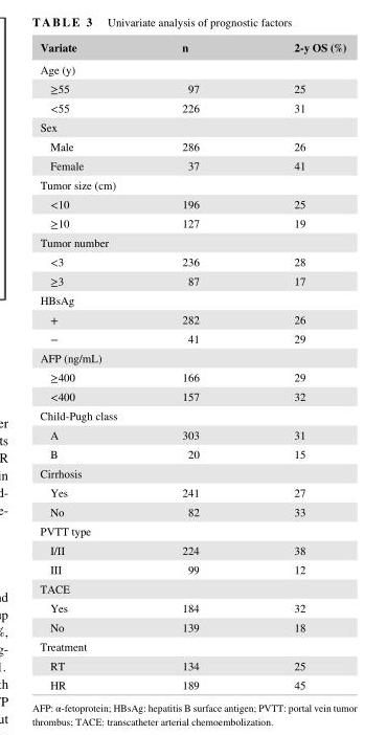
<table><thead><tr><td>Variate</td><td>n</td><td>2- y OS (%)</td></tr></thead><tbody><tr><td colspan="3">Age (y)</td></tr><tr><td>≥55</td><td>97</td><td>25</td></tr><tr><td>&lt;55</td><td>226</td><td>31</td></tr><tr><td colspan="3">Sex</td></tr><tr><td>Male</td><td>286</td><td>26</td></tr><tr><td>Female</td><td>37</td><td>41</td></tr><tr><td colspan="3">Tumor size (cm)</td></tr><tr><td>&lt;10</td><td>196</td><td>25</td></tr><tr><td>≥10</td><td>127</td><td>19</td></tr><tr><td colspan="3">Tumor number</td></tr><tr><td>&lt;3</td><td>236</td><td>28</td></tr><tr><td>≥3</td><td>87</td><td>17</td></tr><tr><td colspan="3">HBsAg</td></tr><tr><td>+</td><td>282</td><td>26</td></tr><tr><td>−</td><td>41</td><td>29</td></tr><tr><td colspan="3">AFP (ng/mL)</td></tr><tr><td>≥400</td><td>166</td><td>29</td></tr><tr><td>&lt;400</td><td>157</td><td>32</td></tr><tr><td colspan="3">Child- Pugh class</td></tr><tr><td>A</td><td>303</td><td>31</td></tr><tr><td>B</td><td>20</td><td>15</td></tr><tr><td colspan="3">Cirrhosis</td></tr><tr><td>Yes</td><td>241</td><td>27</td></tr><tr><td>No</td><td>82</td><td>33</td></tr><tr><td colspan="3">PVTT type</td></tr><tr><td>I/II</td><td>224</td><td>38</td></tr><tr><td>III</td><td>99</td><td>12</td></tr><tr><td colspan="3">TACE</td></tr><tr><td>Yes</td><td>184</td><td>32</td></tr><tr><td>No</td><td>139</td><td>18</td></tr><tr><td colspan="3">Treatment</td></tr><tr><td>RT</td><td>134</td><td>25</td></tr><tr><td>HR</td><td>189</td><td>45</td></tr></tbody></table>